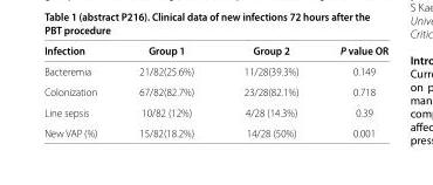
<table><thead><tr><td>Infection</td><td>Group 1</td><td>Group 2</td><td>P value OR</td></tr></thead><tbody><tr><td>Bacteremia</td><td>21/82(25.6%)</td><td>11/28(39.3%)</td><td>0.149</td></tr><tr><td>Colonization</td><td>67/82(82.7%)</td><td>23/28(82.1%)</td><td>0.718</td></tr><tr><td>Line sepsis</td><td>10/82 (12%)</td><td>4/28 (14.3%)</td><td>0.39</td></tr><tr><td>New VAP (%)</td><td>15/82(18.2%)</td><td>14/28 (50%)</td><td>0.001</td></tr></tbody></table>